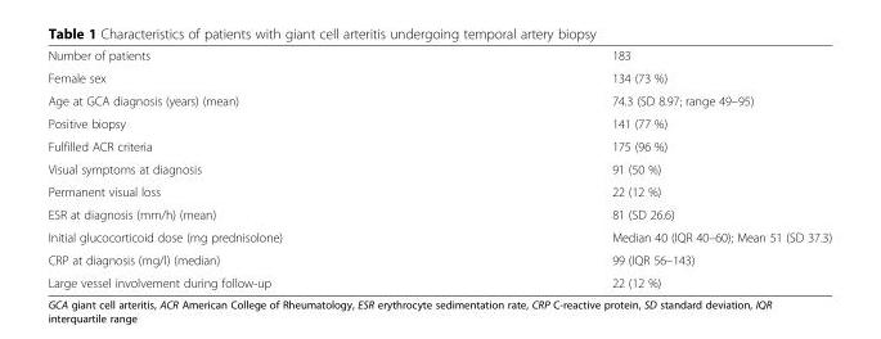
<table><tbody><tr><td>Number of patients</td><td>183</td></tr><tr><td>Female sex</td><td>134 (73 %)</td></tr><tr><td>Age at GCA diagnosis (years) (mean)</td><td>74.3 (SD 8.97; range 49–95)</td></tr><tr><td>Positive biopsy</td><td>141 (77 %)</td></tr><tr><td>Fulfilled ACR criteria</td><td>175 (96 %)</td></tr><tr><td>Visual symptoms at diagnosis</td><td>91 (50 %)</td></tr><tr><td>Permanent visual loss</td><td>22 (12 %)</td></tr><tr><td>ESR at diagnosis (mm/h) (mean)</td><td>81 (SD 26.6)</td></tr><tr><td>Initial glucocorticoid dose (mg prednisolone)</td><td>Median 40 (IQR 40–60); Mean 51 (SD 37.3)</td></tr><tr><td>CRP at diagnosis (mg/l) (median)</td><td>99 (IQR 56–143)</td></tr><tr><td>Large vessel involvement during follow-up</td><td>22 (12 %)</td></tr></tbody></table>